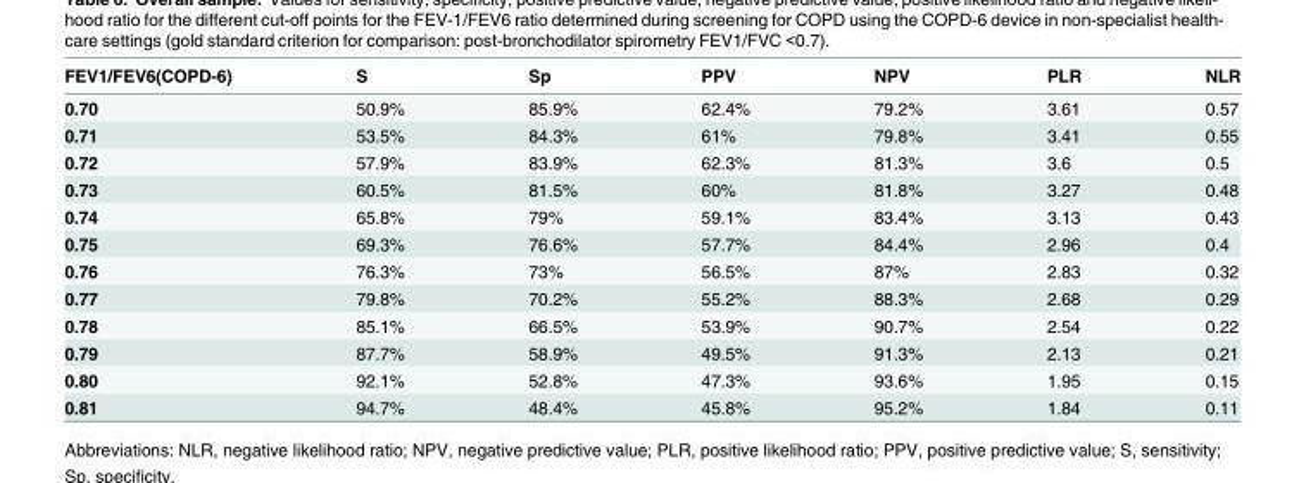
<table><thead><tr><td>FEV1/FEV6(COPD-6)</td><td>S</td><td>Sp</td><td>PPV</td><td>NPV</td><td>PLR</td><td>NLR</td></tr></thead><tbody><tr><td>0.70</td><td>50.9%</td><td>85.9%</td><td>62.4%</td><td>79.2%</td><td>3.61</td><td>0.57</td></tr><tr><td>0.71</td><td>53.5%</td><td>84.3%</td><td>61%</td><td>79.8%</td><td>3.41</td><td>0.55</td></tr><tr><td>0.72</td><td>57.9%</td><td>83.9%</td><td>62.3%</td><td>81.3%</td><td>3.6</td><td>0.5</td></tr><tr><td>0.73</td><td>60.5%</td><td>81.5%</td><td>60%</td><td>81.8%</td><td>3.27</td><td>0.48</td></tr><tr><td>0.74</td><td>65.8%</td><td>79%</td><td>59.1%</td><td>83.4%</td><td>3.13</td><td>0.43</td></tr><tr><td>0.75</td><td>69.3%</td><td>76.6%</td><td>57.7%</td><td>84.4%</td><td>2.96</td><td>0.4</td></tr><tr><td>0.76</td><td>76.3%</td><td>73%</td><td>56.5%</td><td>87%</td><td>2.83</td><td>0.32</td></tr><tr><td>0.77</td><td>79.8%</td><td>70.2%</td><td>55.2%</td><td>88.3%</td><td>2.68</td><td>0.29</td></tr><tr><td>0.78</td><td>85.1%</td><td>66.5%</td><td>53.9%</td><td>90.7%</td><td>2.54</td><td>0.22</td></tr><tr><td>0.79</td><td>87.7%</td><td>58.9%</td><td>49.5%</td><td>91.3%</td><td>2.13</td><td>0.21</td></tr><tr><td>0.80</td><td>92.1%</td><td>52.8%</td><td>47.3%</td><td>93.6%</td><td>1.95</td><td>0.15</td></tr><tr><td>0.81</td><td>94.7%</td><td>48.4%</td><td>45.8%</td><td>95.2%</td><td>1.84</td><td>0.11</td></tr></tbody></table>